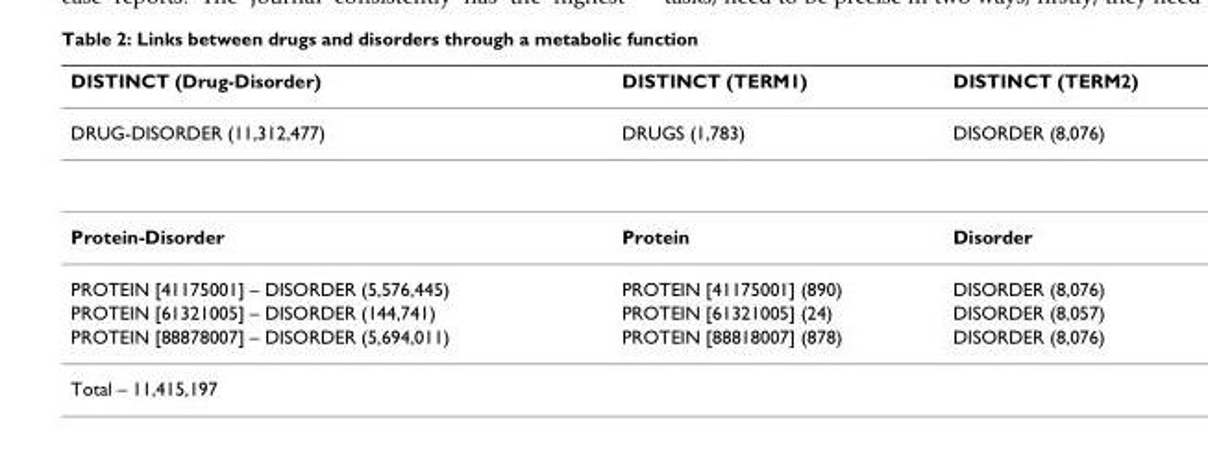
<table><thead><tr><td>DISTINCT (Drug-Disorder)</td><td>DISTINCT (TERM1)</td><td>DISTINCT (TERM2)</td></tr></thead><tbody><tr><td>DRUG-DISORDER (11,312,477)</td><td>DRUGS (1,783)</td><td>DISORDER (8,076)</td></tr><tr><td>Protein-Disorder</td><td>Protein</td><td>Disorder</td></tr><tr><td>PROTEIN [41175001] – DISORDER (5,576,445)</td><td>PROTEIN [41175001] (890)</td><td>DISORDER (8,076)</td></tr><tr><td>PROTEIN [61321005] – DISORDER (144,741)</td><td>PROTEIN [61321005] (24)</td><td>DISORDER (8,057)</td></tr><tr><td>PROTEIN [88878007] – DISORDER (5,694,011)</td><td>PROTEIN [88818007] (878)</td><td>DISORDER (8,076)</td></tr><tr><td>Total – 11,415,197</td><td></td><td></td></tr></tbody></table>